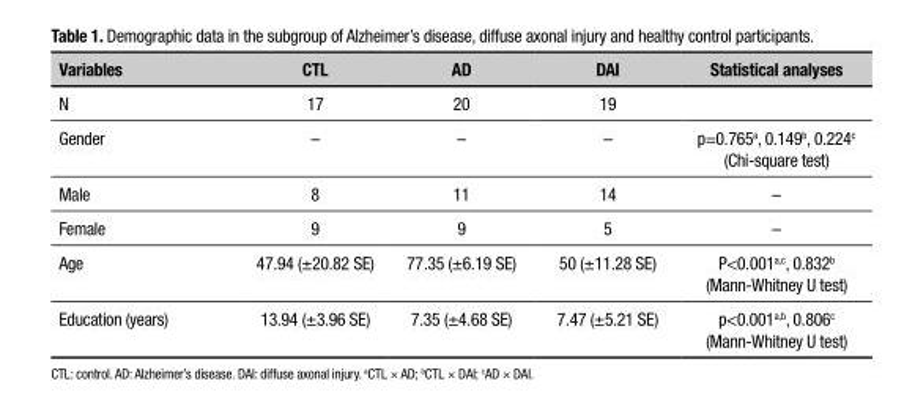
<table><thead><tr><td>Variables</td><td>CTL</td><td>AD</td><td>DAI</td><td>Statistical analyses</td></tr></thead><tbody><tr><td>N</td><td>17</td><td>20</td><td>19</td><td></td></tr><tr><td>Gender</td><td>–</td><td>–</td><td>–</td><td>p=0.765<sup>a</sup>, 0.149<sup>b</sup>, 0.224<sup>c</sup> (Chi-square test)</td></tr><tr><td>Male</td><td>8</td><td>11</td><td>14</td><td>–</td></tr><tr><td>Female</td><td>9</td><td>9</td><td>5</td><td>–</td></tr><tr><td>Age</td><td>47.94 (±20.82 SE)</td><td>77.35 (±6.19 SE)</td><td>50 (±11.28 SE)</td><td>P&lt;0.001<sup>a,c</sup>, 0.832<sup>b</sup> (Mann-Whitney U test)</td></tr><tr><td>Education (years)</td><td>13.94 (±3.96 SE)</td><td>7.35 (±4.68 SE)</td><td>7.47 (±5.21 SE)</td><td>p&lt;0.001<sup>a,b</sup>, 0.806<sup>c</sup> (Mann-Whitney U test)</td></tr></tbody></table>